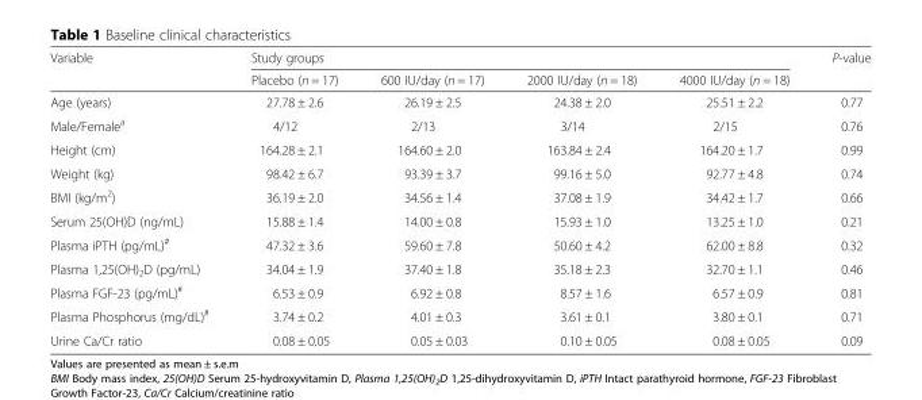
<table><thead><tr><td rowspan="2">Variable</td><td colspan="4">Study groups</td><td rowspan="2">P-value</td></tr><tr><td>Placebo (n = 17)</td><td>600 IU/day (n = 17)</td><td>2000 IU/day (n = 18)</td><td>4000 IU/day (n = 18)</td></tr></thead><tbody><tr><td>Age (years)</td><td>27.78 ± 2.6</td><td>26.19 ± 2.5</td><td>24.38 ± 2.0</td><td>25.51 ± 2.2</td><td>0.77</td></tr><tr><td>Male/Female<sup>a</sup></td><td>4/12</td><td>2/13</td><td>3/14</td><td>2/15</td><td>0.76</td></tr><tr><td>Height (cm)</td><td>164.28 ± 2.1</td><td>164.60 ± 2.0</td><td>163.84 ± 2.4</td><td>164.20 ± 1.7</td><td>0.99</td></tr><tr><td>Weight (kg)</td><td>98.42 ± 6.7</td><td>93.39 ± 3.7</td><td>99.16 ± 5.0</td><td>92.77 ± 4.8</td><td>0.74</td></tr><tr><td>BMI (kg/m<sup>2</sup>)</td><td>36.19 ± 2.0</td><td>34.56 ± 1.4</td><td>37.08 ± 1.9</td><td>34.42 ± 1.7</td><td>0.66</td></tr><tr><td>Serum 25(OH)D (ng/mL)</td><td>15.88 ± 1.4</td><td>14.00 ± 0.8</td><td>15.93 ± 1.0</td><td>13.25 ± 1.0</td><td>0.21</td></tr><tr><td>Plasma iPTH (pg/mL)<sup>#</sup></td><td>47.32 ± 3.6</td><td>59.60 ± 7.8</td><td>50.60 ± 4.2</td><td>62.00 ± 8.8</td><td>0.32</td></tr><tr><td>Plasma 1,25(OH)<sub>2</sub>D (pg/mL)</td><td>34.04 ± 1.9</td><td>37.40 ± 1.8</td><td>35.18 ± 2.3</td><td>32.70 ± 1.1</td><td>0.46</td></tr><tr><td>Plasma FGF-23 (pg/mL)<sup>#</sup></td><td>6.53 ± 0.9</td><td>6.92 ± 0.8</td><td>8.57 ± 1.6</td><td>6.57 ± 0.9</td><td>0.81</td></tr><tr><td>Plasma Phosphorus (mg/dL)<sup>#</sup></td><td>3.74 ± 0.2</td><td>4.01 ± 0.3</td><td>3.61 ± 0.1</td><td>3.80 ± 0.1</td><td>0.71</td></tr><tr><td>Urine Ca/Cr ratio</td><td>0.08 ± 0.05</td><td>0.05 ± 0.03</td><td>0.10 ± 0.05</td><td>0.08 ± 0.05</td><td>0.09</td></tr></tbody></table>